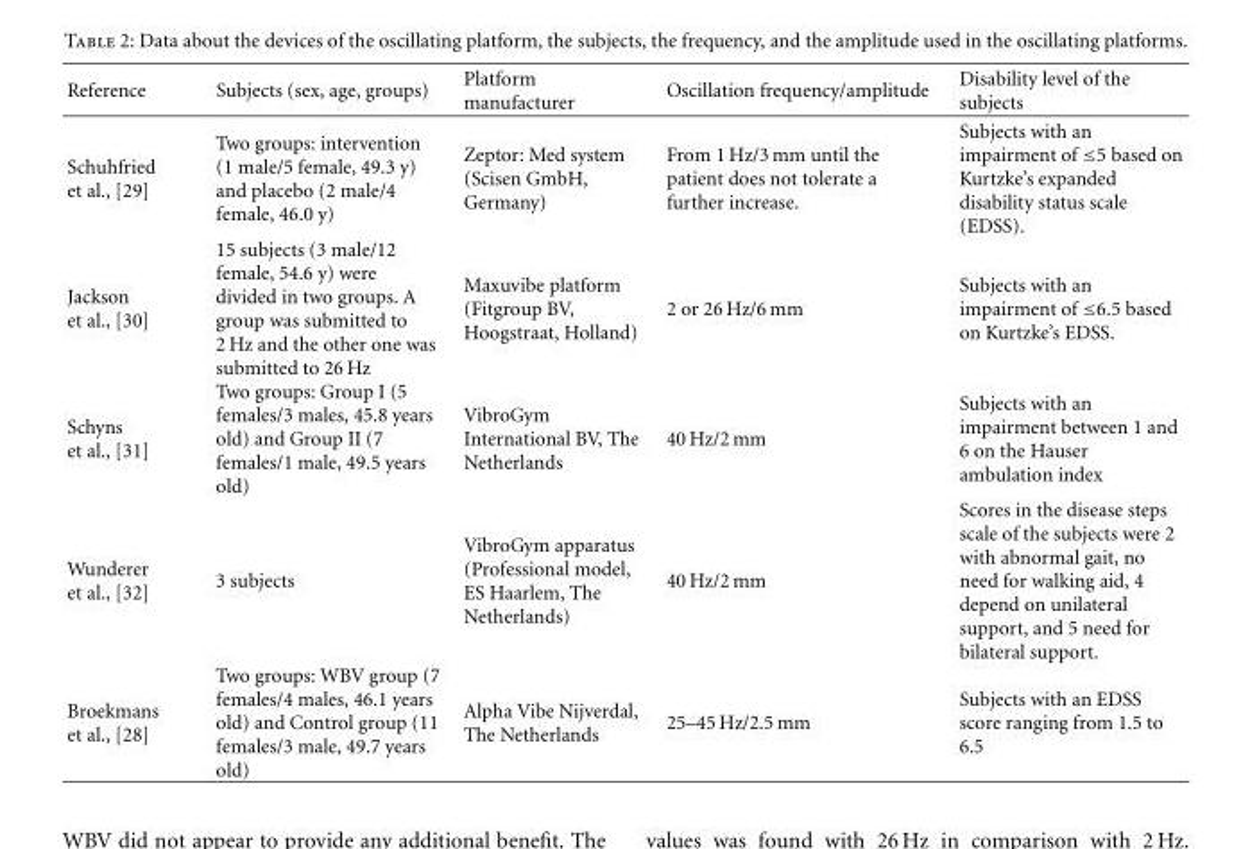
<table><thead><tr><td>Reference</td><td>Subjects (sex, age, groups)</td><td>Platform manufacturer</td><td>Oscillation frequency/amplitude</td><td>Disability level of the subjects</td></tr></thead><tbody><tr><td>Schuhfried et al., [29]</td><td>Two groups: intervention (1 male/5 female, 49.3 y) and placebo (2 male/4 female, 46.0 y)</td><td>Zeptor: Med system (Scisen GmbH, Germany)</td><td>From 1 Hz/3 mm until the patient does not tolerate a further increase.</td><td>Subjects with an impairment of ≤5 based on Kurtzke’s expanded disability status scale (EDSS).</td></tr><tr><td>Jackson et al., [30]</td><td>15 subjects (3 male/12 female, 54.6 y) were divided in two groups. A group was submitted to 2 Hz and the other one was submitted to 26 Hz</td><td>Maxuvibe platform (Fitgroup BV, Hoogstraat, Holland)</td><td>2 or 26 Hz/6 mm</td><td>Subjects with an impairment of ≤6.5 based on Kurtzke’s EDSS.</td></tr><tr><td>Schyns et al., [31]</td><td>Two groups: Group I (5 females/3 males, 45.8 years old) and Group II (7 females/1 male, 49.5 years old)</td><td>VibroGym International BV, The Netherlands</td><td>40 Hz/2 mm</td><td>Subjects with an impairment between 1 and 6 on the Hauser ambulation index</td></tr><tr><td>Wunderer et al., [32]</td><td>3 subjects</td><td>VibroGym apparatus (Professional model, ES Haarlem, The Netherlands)</td><td>40 Hz/2 mm</td><td>Scores in the disease steps scale of the subjects were 2 with abnormal gait, no need for walking aid, 4 depend on unilateral support, and 5 need for bilateral support.</td></tr><tr><td>Broekmans et al., [28]</td><td>Two groups: WBV group (7 females/4 males, 46.1 years old) and Control group (11 females/3 male, 49.7 years old)</td><td>Alpha Vibe Nijverdal, The Netherlands</td><td>25–45 Hz/2.5 mm</td><td>Subjects with an EDSS score ranging from 1.5 to 6.5</td></tr></tbody></table>